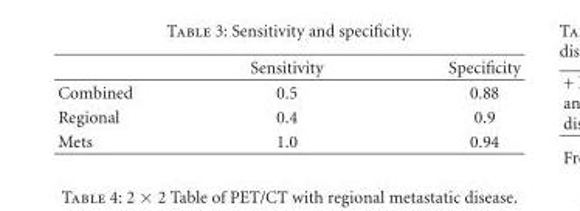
<table><thead><tr><td></td><td>Sensitivity</td><td>Specificity</td></tr></thead><tbody><tr><td>Combined</td><td>0.5</td><td>0.88</td></tr><tr><td>Regional</td><td>0.4</td><td>0.9</td></tr><tr><td>Mets</td><td>1.0</td><td>0.94</td></tr></tbody></table>